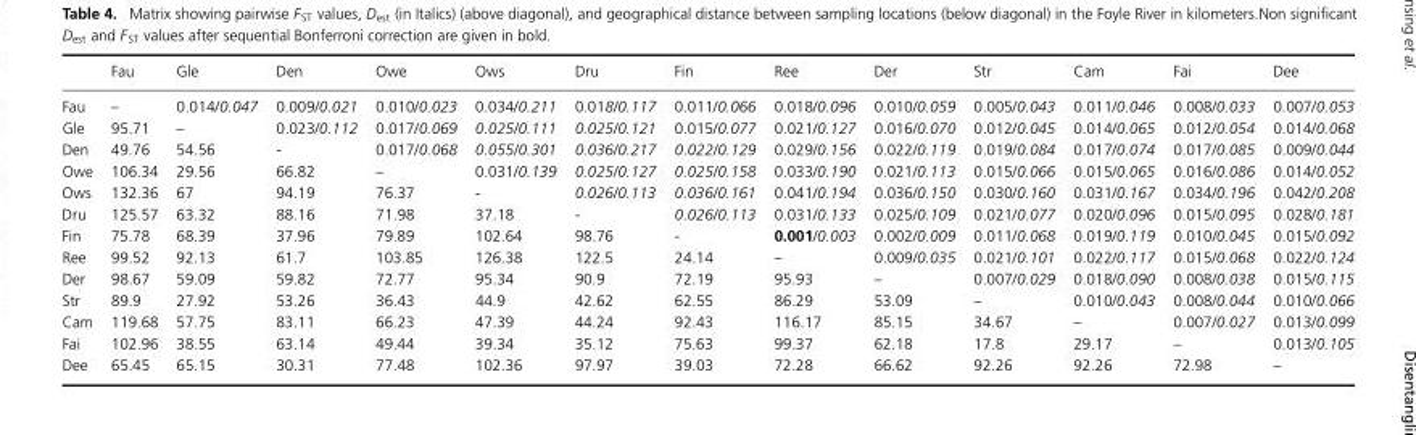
<table><thead><tr><td></td><td>Fau</td><td>Gle</td><td>Den</td><td>Owe</td><td>Ows</td><td>Dru</td><td>Fin</td><td>Ree</td><td>Der</td><td>Str</td><td>Cam</td><td>Fai</td><td>Dee</td></tr></thead><tbody><tr><td>Fau</td><td>–</td><td>0.014/0.047</td><td>0.009/0.021</td><td>0.010/0.023</td><td>0.034/0.211</td><td>0.018/0.117</td><td>0.011/0.066</td><td>0.018/0.096</td><td>0.010/0.059</td><td>0.005/0.043</td><td>0.011/0.046</td><td>0.008/0.033</td><td>0.007/0.053</td></tr><tr><td>Gle</td><td>95.71</td><td>–</td><td>0.023/0.112</td><td>0.017/0.069</td><td>0.025/0.111</td><td>0.025/0.121</td><td>0.015/0.077</td><td>0.021/0.127</td><td>0.016/0.070</td><td>0.012/0.045</td><td>0.014/0.065</td><td>0.012/0.054</td><td>0.014/0.068</td></tr><tr><td>Den</td><td>49.76</td><td>54.56</td><td>-</td><td>0.017/0.068</td><td>0.055/0.301</td><td>0.036/0.217</td><td>0.022/0.129</td><td>0.029/0.156</td><td>0.022/0.119</td><td>0.019/0.084</td><td>0.017/0.074</td><td>0.017/0.085</td><td>0.009/0.044</td></tr><tr><td>Owe</td><td>106.34</td><td>29.56</td><td>66.82</td><td>–</td><td>0.031/0.139</td><td>0.025/0.127</td><td>0.025/0.158</td><td>0.033/0.190</td><td>0.021/0.113</td><td>0.015/0.066</td><td>0.015/0.065</td><td>0.016/0.086</td><td>0.014/0.052</td></tr><tr><td>Ows</td><td>132.36</td><td>67</td><td>94.19</td><td>76.37</td><td>-</td><td>0.026/0.113</td><td>0.036/0.161</td><td>0.041/0.194</td><td>0.036/0.150</td><td>0.030/0.160</td><td>0.031/0.167</td><td>0.034/0.196</td><td>0.042/0.208</td></tr><tr><td>Dru</td><td>125.57</td><td>63.32</td><td>88.16</td><td>71.98</td><td>37.18</td><td>-</td><td>0.026/0.113</td><td>0.031/0.133</td><td>0.025/0.109</td><td>0.021/0.077</td><td>0.020/0.096</td><td>0.015/0.095</td><td>0.028/0.181</td></tr><tr><td>Fin</td><td>75.78</td><td>68.39</td><td>37.96</td><td>79.89</td><td>102.64</td><td>98.76</td><td>-</td><td>0.001/0.003</td><td>0.002/0.009</td><td>0.011/0.068</td><td>0.019/0.119</td><td>0.010/0.045</td><td>0.015/0.092</td></tr><tr><td>Ree</td><td>99.52</td><td>92.13</td><td>61.7</td><td>103.85</td><td>126.38</td><td>122.5</td><td>24.14</td><td>–</td><td>0.009/0.035</td><td>0.021/0.101</td><td>0.022/0.117</td><td>0.015/0.068</td><td>0.022/0.124</td></tr><tr><td>Der</td><td>98.67</td><td>59.09</td><td>59.82</td><td>72.77</td><td>95.34</td><td>90.9</td><td>72.19</td><td>95.93</td><td>–</td><td>0.007/0.029</td><td>0.018/0.090</td><td>0.008/0.038</td><td>0.015/0.115</td></tr><tr><td>Str</td><td>89.9</td><td>27.92</td><td>53.26</td><td>36.43</td><td>44.9</td><td>42.62</td><td>62.55</td><td>86.29</td><td>53.09</td><td>–</td><td>0.010/0.043</td><td>0.008/0.044</td><td>0.010/0.066</td></tr><tr><td>Cam</td><td>119.68</td><td>57.75</td><td>83.11</td><td>66.23</td><td>47.39</td><td>44.24</td><td>92.43</td><td>116.17</td><td>85.15</td><td>34.67</td><td>–</td><td>0.007/0.027</td><td>0.013/0.099</td></tr><tr><td>Fai</td><td>102.96</td><td>38.55</td><td>63.14</td><td>49.44</td><td>39.34</td><td>35.12</td><td>75.63</td><td>99.37</td><td>62.18</td><td>17.8</td><td>29.17</td><td>–</td><td>0.013/0.105</td></tr><tr><td>Dee</td><td>65.45</td><td>65.15</td><td>30.31</td><td>77.48</td><td>102.36</td><td>97.97</td><td>39.03</td><td>72.28</td><td>66.62</td><td>92.26</td><td>92.26</td><td>72.98</td><td>–</td></tr></tbody></table>